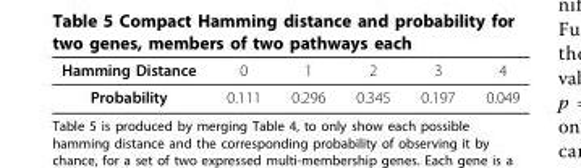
<table><thead><tr><td>Hamming Distance</td><td>0</td><td>1</td><td>2</td><td>3</td><td>4</td></tr></thead><tbody><tr><td>Probability</td><td>0.111</td><td>0.296</td><td>0.345</td><td>0.197</td><td>0.049</td></tr></tbody></table>